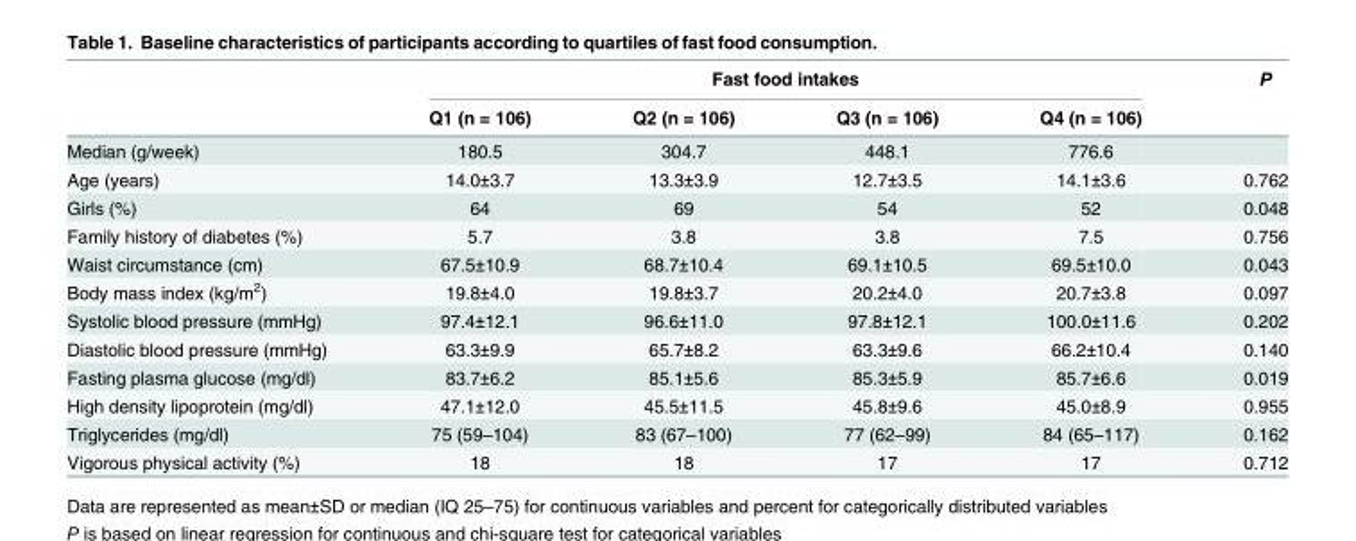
<table><thead><tr><td rowspan="2"></td><td colspan="4">Fast food intakes</td><td rowspan="2">P</td></tr><tr><td>Q1 (n = 106)</td><td>Q2 (n = 106)</td><td>Q3 (n = 106)</td><td>Q4 (n = 106)</td></tr></thead><tbody><tr><td>Median (g/week)</td><td>180.5</td><td>304.7</td><td>448.1</td><td>776.6</td><td></td></tr><tr><td>Age (years)</td><td>14.0±3.7</td><td>13.3±3.9</td><td>12.7±3.5</td><td>14.1±3.6</td><td>0.762</td></tr><tr><td>Girls (%)</td><td>64</td><td>69</td><td>54</td><td>52</td><td>0.048</td></tr><tr><td>Family history of diabetes (%)</td><td>5.7</td><td>3.8</td><td>3.8</td><td>7.5</td><td>0.756</td></tr><tr><td>Waist circumstance (cm)</td><td>67.5±10.9</td><td>68.7±10.4</td><td>69.1±10.5</td><td>69.5±10.0</td><td>0.043</td></tr><tr><td>Body mass index (kg/m<sup>2</sup>)</td><td>19.8±4.0</td><td>19.8±3.7</td><td>20.2±4.0</td><td>20.7±3.8</td><td>0.097</td></tr><tr><td>Systolic blood pressure (mmHg)</td><td>97.4±12.1</td><td>96.6±11.0</td><td>97.8±12.1</td><td>100.0±11.6</td><td>0.202</td></tr><tr><td>Diastolic blood pressure (mmHg)</td><td>63.3±9.9</td><td>65.7±8.2</td><td>63.3±9.6</td><td>66.2±10.4</td><td>0.140</td></tr><tr><td>Fasting plasma glucose (mg/dl)</td><td>83.7±6.2</td><td>85.1±5.6</td><td>85.3±5.9</td><td>85.7±6.6</td><td>0.019</td></tr><tr><td>High density lipoprotein (mg/dl)</td><td>47.1±12.0</td><td>45.5±11.5</td><td>45.8±9.6</td><td>45.0±8.9</td><td>0.955</td></tr><tr><td>Triglycerides (mg/dl)</td><td>75 (59–104)</td><td>83 (67–100)</td><td>77 (62–99)</td><td>84 (65–117)</td><td>0.162</td></tr><tr><td>Vigorous physical activity (%)</td><td>18</td><td>18</td><td>17</td><td>17</td><td>0.712</td></tr></tbody></table>